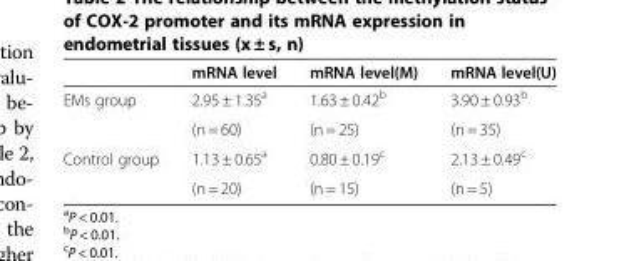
<table><thead><tr><td></td><td>mRNA level</td><td>mRNA level(M)</td><td>mRNA level(U)</td></tr></thead><tbody><tr><td rowspan="2">EMs group</td><td>2.95 ± 1.35<sup>a</sup></td><td>1.63 ± 0.42<sup>b</sup></td><td>3.90 ± 0.93<sup>b</sup></td></tr><tr><td>(n = 60)</td><td>(n = 25)</td><td>(n = 35)</td></tr><tr><td rowspan="2">Control group</td><td>1.13 ± 0.65<sup>a</sup></td><td>0.80 ± 0.19<sup>c</sup></td><td>2.13 ± 0.49<sup>c</sup></td></tr><tr><td>(n = 20)</td><td>(n = 15)</td><td>(n = 5)</td></tr></tbody></table>